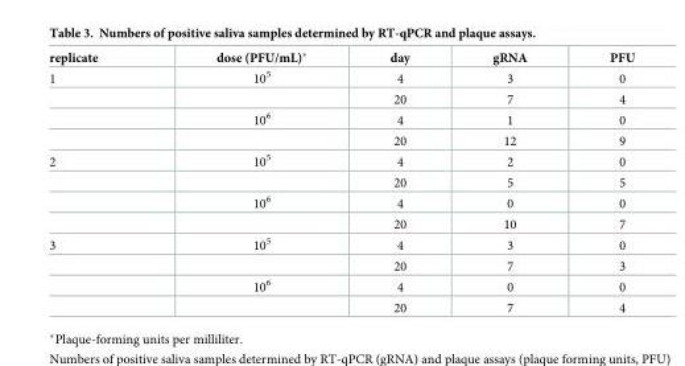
<table><thead><tr><td>replicate</td><td>dose (PFU/mL)*</td><td>day</td><td>gRNA</td><td>PFU</td></tr></thead><tbody><tr><td rowspan="4">1</td><td>10<sup>5</sup></td><td>4</td><td>3</td><td>0</td></tr><tr><td></td><td>20</td><td>7</td><td>4</td></tr><tr><td>10<sup>6</sup></td><td>4</td><td>1</td><td>0</td></tr><tr><td></td><td>20</td><td>12</td><td>9</td></tr><tr><td rowspan="4">2</td><td>10<sup>5</sup></td><td>4</td><td>2</td><td>0</td></tr><tr><td></td><td>20</td><td>5</td><td>5</td></tr><tr><td>10<sup>6</sup></td><td>4</td><td>0</td><td>0</td></tr><tr><td></td><td>20</td><td>10</td><td>7</td></tr><tr><td rowspan="4">3</td><td>10<sup>5</sup></td><td>4</td><td>3</td><td>0</td></tr><tr><td></td><td>20</td><td>7</td><td>3</td></tr><tr><td>10<sup>6</sup></td><td>4</td><td>0</td><td>0</td></tr><tr><td></td><td>20</td><td>7</td><td>4</td></tr></tbody></table>